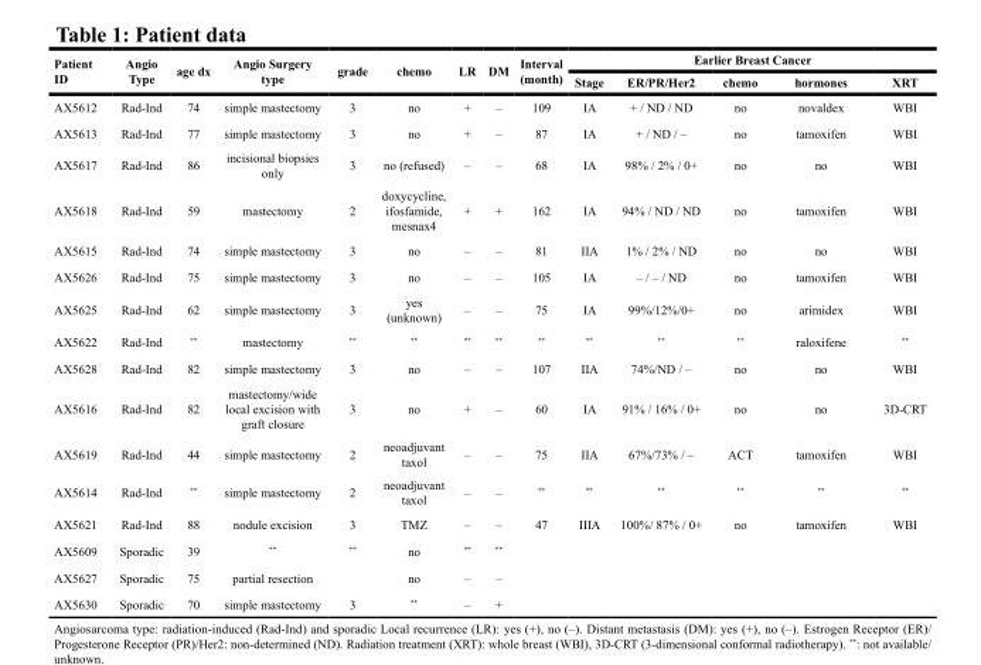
<table><thead><tr><td rowspan="2">Patient ID</td><td rowspan="2">Angio Type</td><td rowspan="2">age dx</td><td rowspan="2">Angio Surgery type</td><td rowspan="2">grade</td><td rowspan="2">chemo</td><td rowspan="2">LR</td><td rowspan="2">DM</td><td rowspan="2">Interval (month)</td><td colspan="5">Earlier Breast Cancer</td></tr><tr><td>Stage</td><td>ER/PR/Her2</td><td>chemo</td><td>hormones</td><td>XRT</td></tr></thead><tbody><tr><td>AX5612</td><td>Rad-Ind</td><td>74</td><td>simple mastectomy</td><td>3</td><td>no</td><td>+</td><td>–</td><td>109</td><td>IA</td><td>+ / ND / ND</td><td>no</td><td>novaldex</td><td>WBI</td></tr><tr><td>AX5613</td><td>Rad-Ind</td><td>77</td><td>simple mastectomy</td><td>3</td><td>no</td><td>+</td><td>–</td><td>87</td><td>IA</td><td>+ / ND / –</td><td>no</td><td>tamoxifen</td><td>WBI</td></tr><tr><td>AX5617</td><td>Rad-Ind</td><td>86</td><td>incisional biopsies only</td><td>3</td><td>no (refused)</td><td>–</td><td>–</td><td>68</td><td>IA</td><td>98% / 2% / 0+</td><td>no</td><td>no</td><td>WBI</td></tr><tr><td>AX5618</td><td>Rad-Ind</td><td>59</td><td>mastectomy</td><td>2</td><td>doxycycline, ifosfamide, mesnax4</td><td>+</td><td>+</td><td>162</td><td>IA</td><td>94% / ND / ND</td><td>no</td><td>tamoxifen</td><td>WBI</td></tr><tr><td>AX5615</td><td>Rad-Ind</td><td>74</td><td>simple mastectomy</td><td>3</td><td>no</td><td>–</td><td>–</td><td>81</td><td>IIA</td><td>1% / 2% / ND</td><td>no</td><td>no</td><td>WBI</td></tr><tr><td>AX5626</td><td>Rad-Ind</td><td>75</td><td>simple mastectomy</td><td>3</td><td>no</td><td>–</td><td>–</td><td>105</td><td>IA</td><td>– / – / ND</td><td>no</td><td>tamoxifen</td><td>WBI</td></tr><tr><td>AX5625</td><td>Rad-Ind</td><td>62</td><td>simple mastectomy</td><td>3</td><td>yes (unknown)</td><td>–</td><td>–</td><td>75</td><td>IA</td><td>99%/12%/0+</td><td>no</td><td>arimidex</td><td>WBI</td></tr><tr><td>AX5622</td><td>Rad-Ind</td><td>**</td><td>mastectomy</td><td>**</td><td>**</td><td>**</td><td>**</td><td>**</td><td>**</td><td>**</td><td>**</td><td>raloxifene</td><td>**</td></tr><tr><td>AX5628</td><td>Rad-Ind</td><td>82</td><td>simple mastectomy</td><td>3</td><td>no</td><td>–</td><td>–</td><td>107</td><td>IIA</td><td>74%/ND / –</td><td>no</td><td>no</td><td>WBI</td></tr><tr><td>AX5616</td><td>Rad-Ind</td><td>82</td><td>mastectomy/wide local excision with graft closure</td><td>3</td><td>no</td><td>+</td><td>–</td><td>60</td><td>IA</td><td>91% / 16% / 0+</td><td>no</td><td>no</td><td>3D-CRT</td></tr><tr><td>AX5619</td><td>Rad-Ind</td><td>44</td><td>simple mastectomy</td><td>2</td><td>neoadjuvant taxol</td><td>–</td><td>–</td><td>75</td><td>IIA</td><td>67%/73% / –</td><td>ACT</td><td>tamoxifen</td><td>WBI</td></tr><tr><td>AX5614</td><td>Rad-Ind</td><td>**</td><td>simple mastectomy</td><td>2</td><td>neoadjuvant taxol</td><td>–</td><td>–</td><td>**</td><td>**</td><td>**</td><td>**</td><td>**</td><td>**</td></tr><tr><td>AX5621</td><td>Rad-Ind</td><td>88</td><td>nodule excision</td><td>3</td><td>TMZ</td><td>–</td><td>–</td><td>47</td><td>IIIA</td><td>100%/ 87% / 0+</td><td>no</td><td>tamoxifen</td><td>WBI</td></tr><tr><td>AX5609</td><td>Sporadic</td><td>39</td><td>**</td><td>**</td><td>no</td><td>**</td><td>**</td><td></td><td></td><td></td><td></td><td></td><td></td></tr><tr><td>AX5627</td><td>Sporadic</td><td>75</td><td>partial resection</td><td></td><td>no</td><td>–</td><td>–</td><td></td><td></td><td></td><td></td><td></td><td></td></tr><tr><td>AX5630</td><td>Sporadic</td><td>70</td><td>simple mastectomy</td><td>3</td><td>**</td><td>–</td><td>+</td><td></td><td></td><td></td><td></td><td></td><td></td></tr></tbody></table>